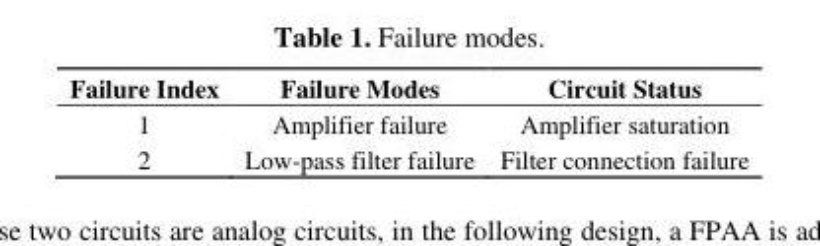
<table><thead><tr><td>Failure Index</td><td>Failure Modes</td><td>Circuit Status</td></tr></thead><tbody><tr><td>1</td><td>Amplifier failure</td><td>Amplifier saturation</td></tr><tr><td>2</td><td>Low-pass filter failure</td><td>Filter connection failure</td></tr></tbody></table>